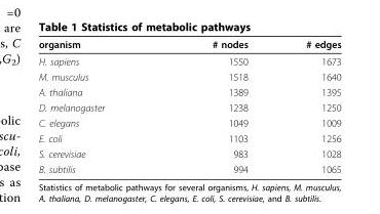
<table><thead><tr><td>organism</td><td># nodes</td><td># edges</td></tr></thead><tbody><tr><td>H. sapiens</td><td>1550</td><td>1673</td></tr><tr><td>M. musculus</td><td>1518</td><td>1640</td></tr><tr><td>A. thaliana</td><td>1389</td><td>1395</td></tr><tr><td>D. melanogaster</td><td>1238</td><td>1250</td></tr><tr><td>C. elegans</td><td>1049</td><td>1009</td></tr><tr><td>E. coli</td><td>1103</td><td>1256</td></tr><tr><td>S. cerevisiae</td><td>983</td><td>1028</td></tr><tr><td>B. subtilis</td><td>994</td><td>1065</td></tr></tbody></table>